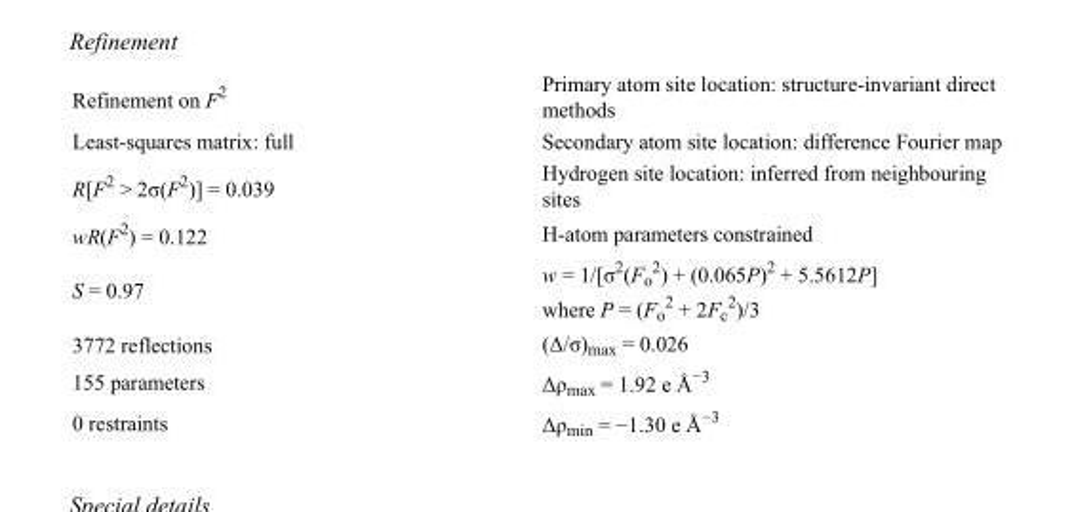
<table><tbody><tr><td>Refinement on F<sup>2</sup></td><td>Primary atom site location: structure-invariant direct methods</td></tr><tr><td>Least-squares matrix: full</td><td>Secondary atom site location: difference Fourier map</td></tr><tr><td>R[F<sup>2</sup> &gt; 2σ(F<sup>2</sup>)] = 0.039</td><td>Hydrogen site location: inferred from neighbouring sites</td></tr><tr><td>wR(F<sup>2</sup>) = 0.122</td><td>H-atom parameters constrained</td></tr><tr><td>S = 0.97</td><td>w = 1/[σ<sup>2</sup>(F<sub>o</sub> <sup>2</sup>) + (0.065P)<sup>2</sup> + 5.5612P] where P = (F<sub>o</sub> <sup>2</sup> + 2F<sub>c</sub> <sup>2</sup>)/3</td></tr><tr><td>3772 reflections</td><td>(Δ/σ)<sub>max</sub> = 0.026</td></tr><tr><td>155 parameters</td><td>Δρ<sub>max</sub> = 1.92 e Å<sup>−3</sup></td></tr><tr><td>0 restraints</td><td>Δρ<sub>min</sub> = −1.30 e Å<sup>−3</sup></td></tr></tbody></table>